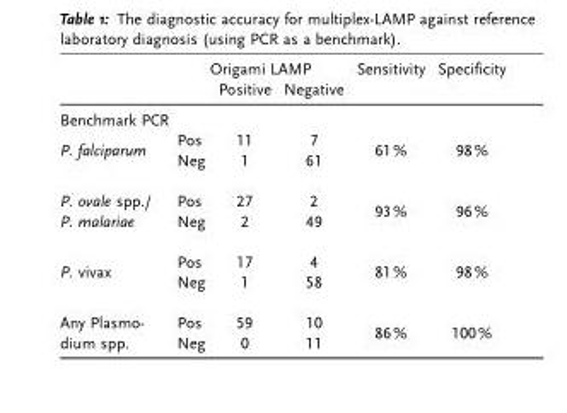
<table><thead><tr><td rowspan="2"></td><td colspan="3">Origami LAMP</td><td rowspan="2">Sensitivity</td><td rowspan="2">Specificity</td></tr><tr><td></td><td>Positive</td><td>Negative</td></tr></thead><tbody><tr><td colspan="6">Benchmark PCR</td></tr><tr><td rowspan="2">P. falciparum</td><td>Pos</td><td>11</td><td>7</td><td rowspan="2">61%</td><td rowspan="2">98%</td></tr><tr><td>Neg</td><td>1</td><td>61</td></tr><tr><td rowspan="2">P. ovale spp./ P. malariae</td><td>Pos</td><td>27</td><td>2</td><td rowspan="2">93%</td><td rowspan="2">96%</td></tr><tr><td>Neg</td><td>2</td><td>49</td></tr><tr><td rowspan="2">P. vivax</td><td>Pos</td><td>17</td><td>4</td><td rowspan="2">81%</td><td rowspan="2">98%</td></tr><tr><td>Neg</td><td>1</td><td>58</td></tr><tr><td rowspan="2">Any Plasmo- dium spp.</td><td>Pos</td><td>59</td><td>10</td><td rowspan="2">86%</td><td rowspan="2">100%</td></tr><tr><td>Neg</td><td>0</td><td>11</td></tr></tbody></table>